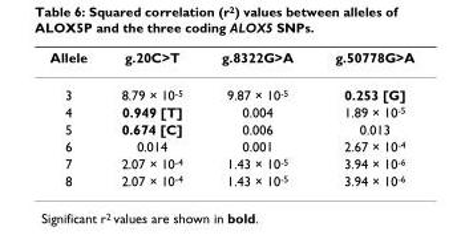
<table><thead><tr><td>Allele</td><td>g.20C&gt;T</td><td>g.8322G&gt;A</td><td>g.50778G&gt;A</td></tr></thead><tbody><tr><td>3</td><td>8.79 × 10<sup>-5</sup></td><td>9.87 × 10<sup>-5</sup></td><td>0.253 [G]</td></tr><tr><td>4</td><td>0.949 [T]</td><td>0.004</td><td>1.89 × 10<sup>-5</sup></td></tr><tr><td>5</td><td>0.674 [C]</td><td>0.006</td><td>0.013</td></tr><tr><td>6</td><td>0.014</td><td>0.001</td><td>2.67 × 10<sup>-4</sup></td></tr><tr><td>7</td><td>2.07 × 10<sup>-4</sup></td><td>1.43 × 10<sup>-5</sup></td><td>3.94 × 10<sup>-6</sup></td></tr><tr><td>8</td><td>2.07 × 10<sup>-4</sup></td><td>1.43 × 10<sup>-5</sup></td><td>3.94 × 10<sup>-6</sup></td></tr></tbody></table>